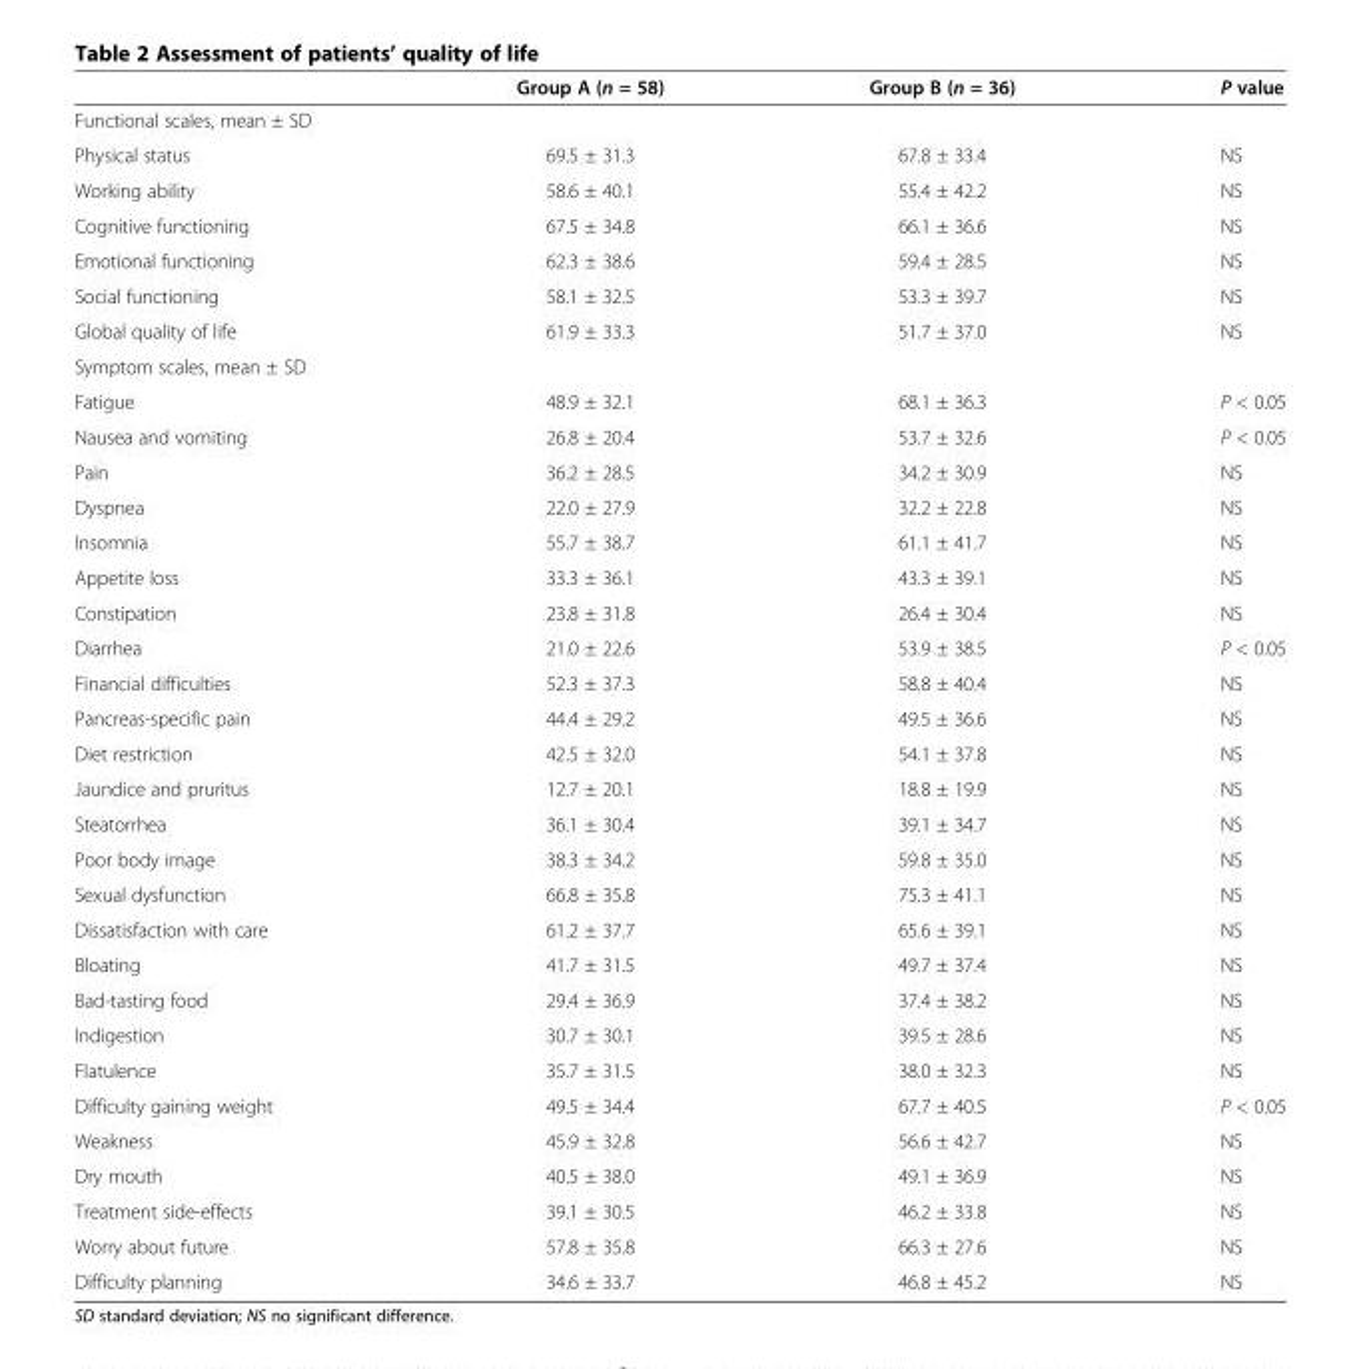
<table><thead><tr><td></td><td>Group A (n = 58)</td><td>Group B (n = 36)</td><td>P value</td></tr></thead><tbody><tr><td colspan="4">Functional scales, mean ± SD</td></tr><tr><td>Physical status</td><td>69.5 ± 31.3</td><td>67.8 ± 33.4</td><td>NS</td></tr><tr><td>Working ability</td><td>58.6 ± 40.1</td><td>55.4 ± 42.2</td><td>NS</td></tr><tr><td>Cognitive functioning</td><td>67.5 ± 34.8</td><td>66.1 ± 36.6</td><td>NS</td></tr><tr><td>Emotional functioning</td><td>62.3 ± 38.6</td><td>59.4 ± 28.5</td><td>NS</td></tr><tr><td>Social functioning</td><td>58.1 ± 32.5</td><td>53.3 ± 39.7</td><td>NS</td></tr><tr><td>Global quality of life</td><td>61.9 ± 33.3</td><td>51.7 ± 37.0</td><td>NS</td></tr><tr><td colspan="4">Symptom scales, mean ± SD</td></tr><tr><td>Fatigue</td><td>48.9 ± 32.1</td><td>68.1 ± 36.3</td><td>P &lt; 0.05</td></tr><tr><td>Nausea and vomiting</td><td>26.8 ± 20.4</td><td>53.7 ± 32.6</td><td>P &lt; 0.05</td></tr><tr><td>Pain</td><td>36.2 ± 28.5</td><td>34.2 ± 30.9</td><td>NS</td></tr><tr><td>Dyspnea</td><td>22.0 ± 27.9</td><td>32.2 ± 22.8</td><td>NS</td></tr><tr><td>Insomnia</td><td>55.7 ± 38.7</td><td>61.1 ± 41.7</td><td>NS</td></tr><tr><td>Appetite loss</td><td>33.3 ± 36.1</td><td>43.3 ± 39.1</td><td>NS</td></tr><tr><td>Constipation</td><td>23.8 ± 31.8</td><td>26.4 ± 30.4</td><td>NS</td></tr><tr><td>Diarrhea</td><td>21.0 ± 22.6</td><td>53.9 ± 38.5</td><td>P &lt; 0.05</td></tr><tr><td>Financial difficulties</td><td>52.3 ± 37.3</td><td>58.8 ± 40.4</td><td>NS</td></tr><tr><td>Pancreas-specific pain</td><td>44.4 ± 29.2</td><td>49.5 ± 36.6</td><td>NS</td></tr><tr><td>Diet restriction</td><td>42.5 ± 32.0</td><td>54.1 ± 37.8</td><td>NS</td></tr><tr><td>Jaundice and pruritus</td><td>12.7 ± 20.1</td><td>18.8 ± 19.9</td><td>NS</td></tr><tr><td>Steatorrhea</td><td>36.1 ± 30.4</td><td>39.1 ± 34.7</td><td>NS</td></tr><tr><td>Poor body image</td><td>38.3 ± 34.2</td><td>59.8 ± 35.0</td><td>NS</td></tr><tr><td>Sexual dysfunction</td><td>66.8 ± 35.8</td><td>75.3 ± 41.1</td><td>NS</td></tr><tr><td>Dissatisfaction with care</td><td>61.2 ± 37.7</td><td>65.6 ± 39.1</td><td>NS</td></tr><tr><td>Bloating</td><td>41.7 ± 31.5</td><td>49.7 ± 37.4</td><td>NS</td></tr><tr><td>Bad-tasting food</td><td>29.4 ± 36.9</td><td>37.4 ± 38.2</td><td>NS</td></tr><tr><td>Indigestion</td><td>30.7 ± 30.1</td><td>39.5 ± 28.6</td><td>NS</td></tr><tr><td>Flatulence</td><td>35.7 ± 31.5</td><td>38.0 ± 32.3</td><td>NS</td></tr><tr><td>Difficulty gaining weight</td><td>49.5 ± 34.4</td><td>67.7 ± 40.5</td><td>P &lt; 0.05</td></tr><tr><td>Weakness</td><td>45.9 ± 32.8</td><td>56.6 ± 42.7</td><td>NS</td></tr><tr><td>Dry mouth</td><td>40.5 ± 38.0</td><td>49.1 ± 36.9</td><td>NS</td></tr><tr><td>Treatment side-effects</td><td>39.1 ± 30.5</td><td>46.2 ± 33.8</td><td>NS</td></tr><tr><td>Worry about future</td><td>57.8 ± 35.8</td><td>66.3 ± 27.6</td><td>NS</td></tr><tr><td>Difficulty planning</td><td>34.6 ± 33.7</td><td>46.8 ± 45.2</td><td>NS</td></tr></tbody></table>